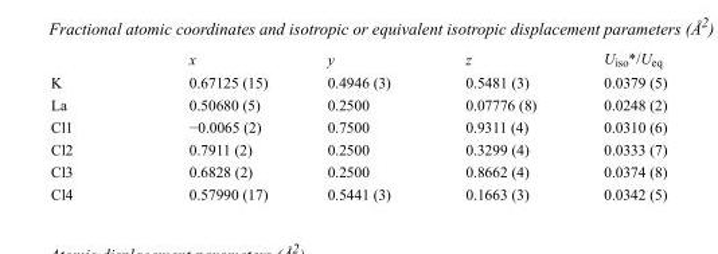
<table><thead><tr><td></td><td>x</td><td>y</td><td>z</td><td>U<sub>iso</sub>*/U<sub>eq</sub></td></tr></thead><tbody><tr><td>K</td><td>0.67125 (15)</td><td>0.4946 (3)</td><td>0.5481 (3)</td><td>0.0379 (5)</td></tr><tr><td>La</td><td>0.50680 (5)</td><td>0.2500</td><td>0.07776 (8)</td><td>0.0248 (2)</td></tr><tr><td>Cl1</td><td>−0.0065 (2)</td><td>0.7500</td><td>0.9311 (4)</td><td>0.0310 (6)</td></tr><tr><td>Cl2</td><td>0.7911 (2)</td><td>0.2500</td><td>0.3299 (4)</td><td>0.0333 (7)</td></tr><tr><td>Cl3</td><td>0.6828 (2)</td><td>0.2500</td><td>0.8662 (4)</td><td>0.0374 (8)</td></tr><tr><td>Cl4</td><td>0.57990 (17)</td><td>0.5441 (3)</td><td>0.1663 (3)</td><td>0.0342 (5)</td></tr></tbody></table>